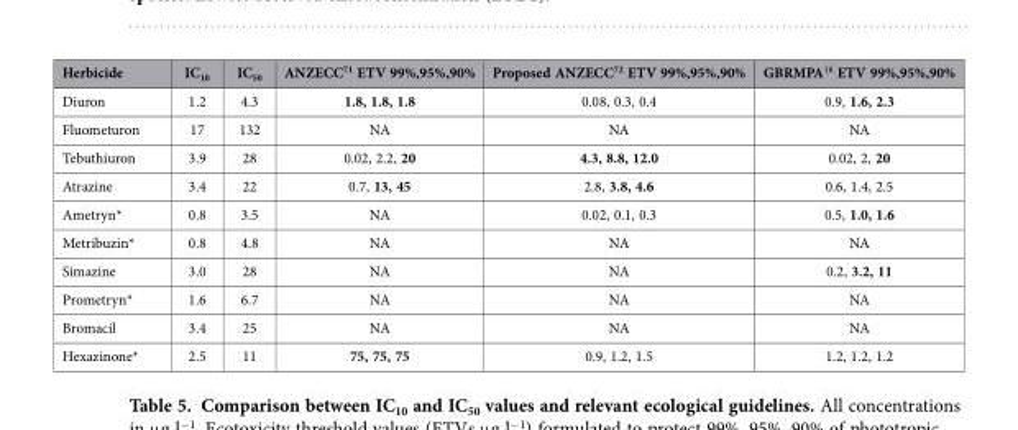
<table><thead><tr><td>Herbicide</td><td>IC<sub>10</sub></td><td>IC<sub>50</sub></td><td>ANZECC<sup>71</sup> ETV 99%,95%,90%</td><td>Proposed ANZECC<sup>72</sup> ETV 99%,95%,90%</td><td>GBRMPA<sup>18</sup> ETV 99%,95%,90%</td></tr></thead><tbody><tr><td>Diuron</td><td>1.2</td><td>4.3</td><td>1.8, 1.8, 1.8</td><td>0.08, 0.3, 0.4</td><td>0.9, 1.6, 2.3</td></tr><tr><td>Fluometuron</td><td>17</td><td>132</td><td>NA</td><td>NA</td><td>NA</td></tr><tr><td>Tebuthiuron</td><td>3.9</td><td>28</td><td>0.02, 2.2, 20</td><td>4.3, 8.8, 12.0</td><td>0.02, 2, 20</td></tr><tr><td>Atrazine</td><td>3.4</td><td>22</td><td>0.7, 13, 45</td><td>2.8, 3.8, 4.6</td><td>0.6, 1.4, 2.5</td></tr><tr><td>Ametryn*</td><td>0.8</td><td>3.5</td><td>NA</td><td>0.02, 0.1, 0.3</td><td>0.5, 1.0, 1.6</td></tr><tr><td>Metribuzin*</td><td>0.8</td><td>4.8</td><td>NA</td><td>NA</td><td>NA</td></tr><tr><td>Simazine</td><td>3.0</td><td>28</td><td>NA</td><td>NA</td><td>0.2, 3.2, 11</td></tr><tr><td>Prometryn*</td><td>1.6</td><td>6.7</td><td>NA</td><td>NA</td><td>NA</td></tr><tr><td>Bromacil</td><td>3.4</td><td>25</td><td>NA</td><td>NA</td><td>NA</td></tr><tr><td>Hexazinone*</td><td>2.5</td><td>11</td><td>75, 75, 75</td><td>0.9, 1.2, 1.5</td><td>1.2, 1.2, 1.2</td></tr></tbody></table>